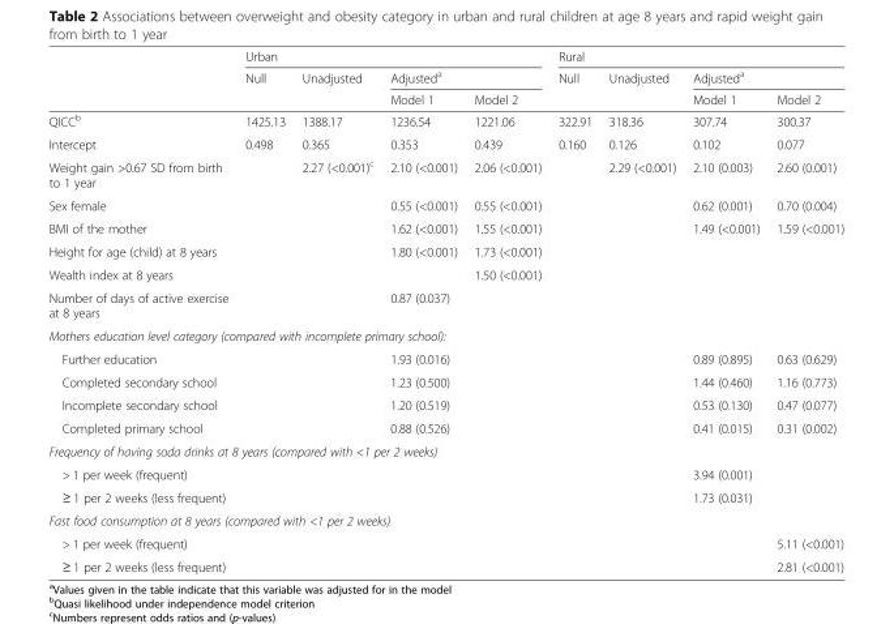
<table><thead><tr><td rowspan="3"></td><td colspan="4">Urban</td><td colspan="4">Rural</td></tr><tr><td rowspan="2">Null</td><td rowspan="2">Unadjusted</td><td colspan="2">Adjusted<sup>a</sup></td><td rowspan="2">Null</td><td rowspan="2">Unadjusted</td><td colspan="2">Adjusted<sup>a</sup></td></tr><tr><td>Model 1</td><td>Model 2</td><td>Model 1</td><td>Model 2</td></tr></thead><tbody><tr><td>QICC<sup>b</sup></td><td>1425.13</td><td>1388.17</td><td>1236.54</td><td>1221.06</td><td>322.91</td><td>318.36</td><td>307.74</td><td>300.37</td></tr><tr><td>Intercept</td><td>0.498</td><td>0.365</td><td>0.353</td><td>0.439</td><td>0.160</td><td>0.126</td><td>0.102</td><td>0.077</td></tr><tr><td>Weight gain &gt;0.67 SD from birth to 1 year</td><td></td><td>2.27 (&lt;0.001)<sup>c</sup></td><td>2.10 (&lt;0.001)</td><td>2.06 (&lt;0.001)</td><td></td><td>2.29 (&lt;0.001)</td><td>2.10 (0.003)</td><td>2.60 (0.001)</td></tr><tr><td>Sex female</td><td></td><td></td><td>0.55 (&lt;0.001)</td><td>0.55 (&lt;0.001)</td><td></td><td></td><td>0.62 (0.001)</td><td>0.70 (0.004)</td></tr><tr><td>BMI of the mother</td><td></td><td></td><td>1.62 (&lt;0.001)</td><td>1.55 (&lt;0.001)</td><td></td><td></td><td>1.49 (&lt;0.001)</td><td>1.59 (&lt;0.001)</td></tr><tr><td>Height for age (child) at 8 years</td><td></td><td></td><td>1.80 (&lt;0.001)</td><td>1.73 (&lt;0.001)</td><td></td><td></td><td></td><td></td></tr><tr><td>Wealth index at 8 years</td><td></td><td></td><td></td><td>1.50 (&lt;0.001)</td><td></td><td></td><td></td><td></td></tr><tr><td>Number of days of active exercise at 8 years</td><td></td><td></td><td>0.87 (0.037)</td><td></td><td></td><td></td><td></td><td></td></tr><tr><td colspan="9">Mothers education level category (compared with incomplete primary school):</td></tr><tr><td>Further education</td><td></td><td></td><td>1.93 (0.016)</td><td></td><td></td><td></td><td>0.89 (0.895)</td><td>0.63 (0.629)</td></tr><tr><td>Completed secondary school</td><td></td><td></td><td>1.23 (0.500)</td><td></td><td></td><td></td><td>1.44 (0.460)</td><td>1.16 (0.773)</td></tr><tr><td>Incomplete secondary school</td><td></td><td></td><td>1.20 (0.519)</td><td></td><td></td><td></td><td>0.53 (0.130)</td><td>0.47 (0.077)</td></tr><tr><td>Completed primary school</td><td></td><td></td><td>0.88 (0.526)</td><td></td><td></td><td></td><td>0.41 (0.015)</td><td>0.31 (0.002)</td></tr><tr><td colspan="9">Frequency of having soda drinks at 8 years (compared with &lt;1 per 2 weeks)</td></tr><tr><td>&gt; 1 per week (frequent)</td><td></td><td></td><td></td><td></td><td></td><td></td><td>3.94 (0.001)</td><td></td></tr><tr><td>≥ 1 per 2 weeks (less frequent)</td><td></td><td></td><td></td><td></td><td></td><td></td><td>1.73 (0.031)</td><td></td></tr><tr><td colspan="9">Fast food consumption at 8 years (compared with &lt;1 per 2 weeks)</td></tr><tr><td>&gt; 1 per week (frequent)</td><td></td><td></td><td></td><td></td><td></td><td></td><td></td><td>5.11 (&lt;0.001)</td></tr><tr><td>≥ 1 per 2 weeks (less frequent)</td><td></td><td></td><td></td><td></td><td></td><td></td><td></td><td>2.81 (&lt;0.001)</td></tr></tbody></table>